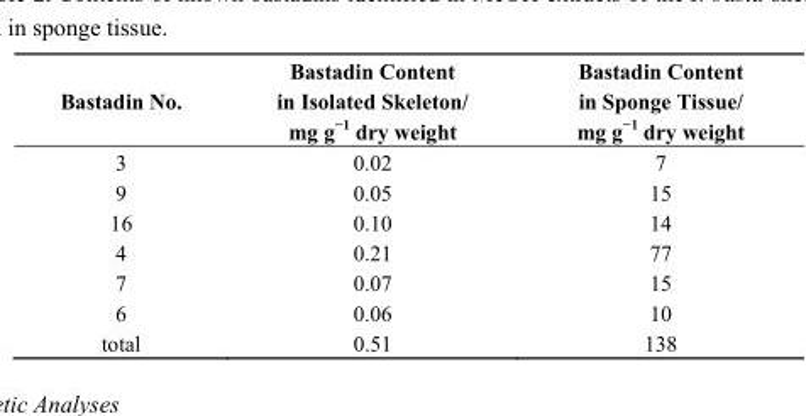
<table><thead><tr><td>Bastadin No.</td><td>Bastadin Content in Isolated Skeleton/ mg g<sup>−1</sup> dry weight</td><td>Bastadin Content in Sponge Tissue/ mg g<sup>−1</sup> dry weight</td></tr></thead><tbody><tr><td>3</td><td>0.02</td><td>7</td></tr><tr><td>9</td><td>0.05</td><td>15</td></tr><tr><td>16</td><td>0.10</td><td>14</td></tr><tr><td>4</td><td>0.21</td><td>77</td></tr><tr><td>7</td><td>0.07</td><td>15</td></tr><tr><td>6</td><td>0.06</td><td>10</td></tr><tr><td>total</td><td>0.51</td><td>138</td></tr></tbody></table>